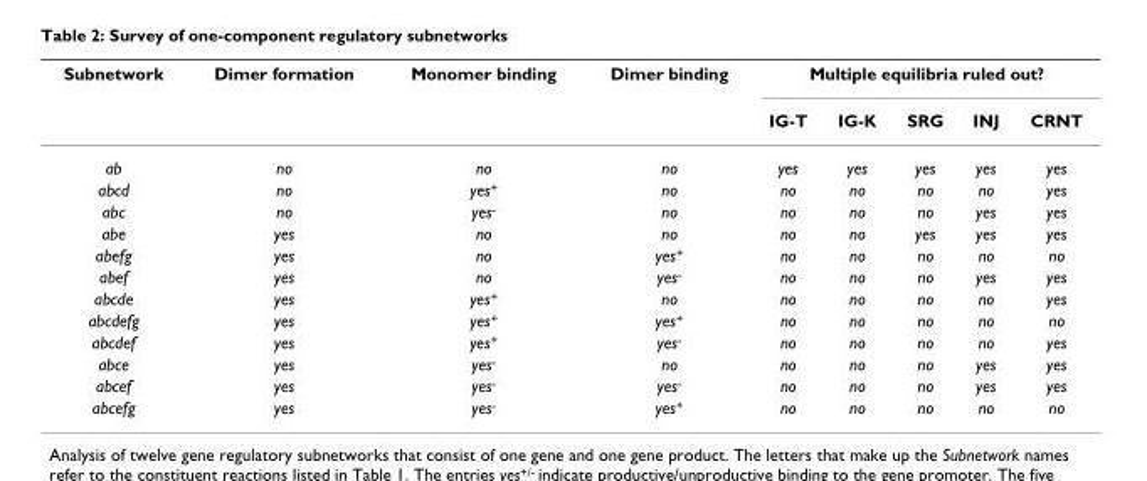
<table><thead><tr><td rowspan="2">Subnetwork</td><td rowspan="2">Dimer formation</td><td rowspan="2">Monomer binding</td><td rowspan="2">Dimer binding</td><td colspan="5">Multiple equilibria ruled out?</td></tr><tr><td>IG-T</td><td>IG-K</td><td>SRG</td><td>INJ</td><td>CRNT</td></tr></thead><tbody><tr><td>ab</td><td>no</td><td>no</td><td>no</td><td>yes</td><td>yes</td><td>yes</td><td>yes</td><td>yes</td></tr><tr><td>abcd</td><td>no</td><td>yes<sup>+</sup></td><td>no</td><td>no</td><td>no</td><td>no</td><td>no</td><td>yes</td></tr><tr><td>abc</td><td>no</td><td>yes<sup>-</sup></td><td>no</td><td>no</td><td>no</td><td>no</td><td>yes</td><td>yes</td></tr><tr><td>abe</td><td>yes</td><td>no</td><td>no</td><td>no</td><td>no</td><td>yes</td><td>yes</td><td>yes</td></tr><tr><td>abefg</td><td>yes</td><td>no</td><td>yes<sup>+</sup></td><td>no</td><td>no</td><td>no</td><td>no</td><td>no</td></tr><tr><td>abef</td><td>yes</td><td>no</td><td>yes<sup>-</sup></td><td>no</td><td>no</td><td>no</td><td>yes</td><td>yes</td></tr><tr><td>abcde</td><td>yes</td><td>yes<sup>+</sup></td><td>no</td><td>no</td><td>no</td><td>no</td><td>no</td><td>yes</td></tr><tr><td>abcdefg</td><td>yes</td><td>yes<sup>+</sup></td><td>yes<sup>+</sup></td><td>no</td><td>no</td><td>no</td><td>no</td><td>no</td></tr><tr><td>abcdef</td><td>yes</td><td>yes<sup>+</sup></td><td>yes<sup>-</sup></td><td>no</td><td>no</td><td>no</td><td>no</td><td>yes</td></tr><tr><td>abce</td><td>yes</td><td>yes<sup>-</sup></td><td>no</td><td>no</td><td>no</td><td>no</td><td>yes</td><td>yes</td></tr><tr><td>abcef</td><td>yes</td><td>yes<sup>-</sup></td><td>yes<sup>-</sup></td><td>no</td><td>no</td><td>no</td><td>yes</td><td>yes</td></tr><tr><td>abcefg</td><td>yes</td><td>yes<sup>-</sup></td><td>yes<sup>+</sup></td><td>no</td><td>no</td><td>no</td><td>no</td><td>no</td></tr></tbody></table>